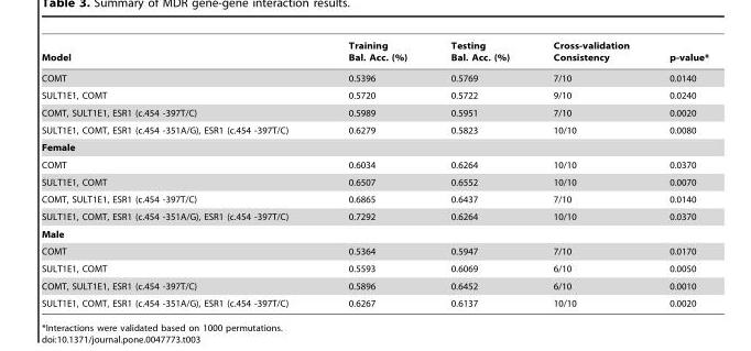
<table><thead><tr><td>Model</td><td>Training Bal. Acc. (%)</td><td>Testing Bal. Acc. (%)</td><td>Cross-validation Consistency</td><td>p-value*</td></tr></thead><tbody><tr><td>COMT</td><td>0.5396</td><td>0.5769</td><td>7/10</td><td>0.0140</td></tr><tr><td>SULT1E1, COMT</td><td>0.5720</td><td>0.5722</td><td>9/10</td><td>0.0240</td></tr><tr><td>COMT, SULT1E1, ESR1 (c.454 -397T/C)</td><td>0.5989</td><td>0.5951</td><td>7/10</td><td>0.0020</td></tr><tr><td>SULT1E1, COMT, ESR1 (c.454 -351A/G), ESR1 (c.454 -397T/C)</td><td>0.6279</td><td>0.5823</td><td>10/10</td><td>0.0080</td></tr><tr><td colspan="5">Female</td></tr><tr><td>COMT</td><td>0.6034</td><td>0.6264</td><td>10/10</td><td>0.0370</td></tr><tr><td>SULT1E1, COMT</td><td>0.6507</td><td>0.6552</td><td>10/10</td><td>0.0070</td></tr><tr><td>COMT, SULT1E1, ESR1 (c.454 -397T/C)</td><td>0.6865</td><td>0.6437</td><td>7/10</td><td>0.0140</td></tr><tr><td>SULT1E1, COMT, ESR1 (c.454 -351A/G), ESR1 (c.454 -397T/C)</td><td>0.7292</td><td>0.6264</td><td>10/10</td><td>0.0370</td></tr><tr><td colspan="5">Male</td></tr><tr><td>COMT</td><td>0.5364</td><td>0.5947</td><td>7/10</td><td>0.0170</td></tr><tr><td>SULT1E1, COMT</td><td>0.5593</td><td>0.6069</td><td>6/10</td><td>0.0050</td></tr><tr><td>COMT, SULT1E1, ESR1 (c.454 -397T/C)</td><td>0.5896</td><td>0.6452</td><td>6/10</td><td>0.0010</td></tr><tr><td>SULT1E1, COMT, ESR1 (c.454 -351A/G), ESR1 (c.454 -397T/C)</td><td>0.6267</td><td>0.6137</td><td>10/10</td><td>0.0020</td></tr></tbody></table>